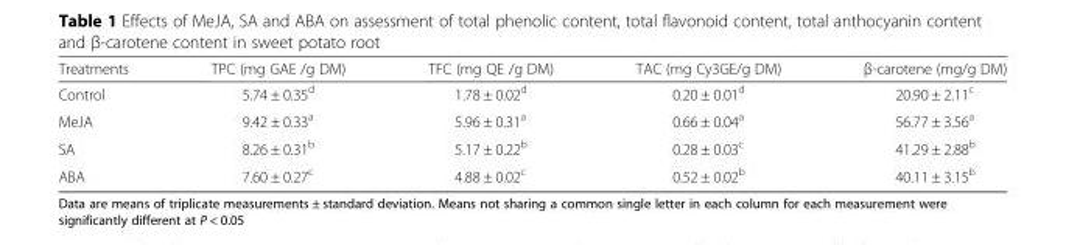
<table><thead><tr><td>Treatments</td><td>TPC (mg GAE /g DM)</td><td>TFC (mg QE /g DM)</td><td>TAC (mg Cy3GE/g DM)</td><td>β-carotene (mg/g DM)</td></tr></thead><tbody><tr><td>Control</td><td>5.74 ± 0.35<sup>d</sup></td><td>1.78 ± 0.02<sup>d</sup></td><td>0.20 ± 0.01<sup>d</sup></td><td>20.90 ± 2.11<sup>c</sup></td></tr><tr><td>MeJA</td><td>9.42 ± 0.33<sup>a</sup></td><td>5.96 ± 0.31<sup>a</sup></td><td>0.66 ± 0.04<sup>a</sup></td><td>56.77 ± 3.56<sup>a</sup></td></tr><tr><td>SA</td><td>8.26 ± 0.31<sup>b</sup></td><td>5.17 ± 0.22<sup>b</sup></td><td>0.28 ± 0.03<sup>c</sup></td><td>41.29 ± 2.88<sup>b</sup></td></tr><tr><td>ABA</td><td>7.60 ± 0.27<sup>c</sup></td><td>4.88 ± 0.02<sup>c</sup></td><td>0.52 ± 0.02<sup>b</sup></td><td>40.11 ± 3.15<sup>b</sup></td></tr></tbody></table>